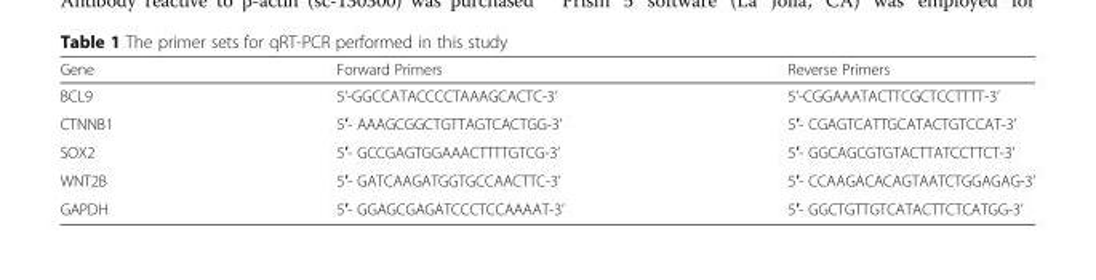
<table><thead><tr><td>Gene</td><td>Forward Primers</td><td>Reverse Primers</td></tr></thead><tbody><tr><td>BCL9</td><td>5’-GGCCATACCCCTAAAGCACTC-3’</td><td>5’-CGGAAATACTTCGCTCCTTTT-3’</td></tr><tr><td>CTNNB1</td><td>5′- AAAGCGGCTGTTAGTCACTGG-3’</td><td>5′- CGAGTCATTGCATACTGTCCAT-3’</td></tr><tr><td>SOX2</td><td>5′- GCCGAGTGGAAACTTTTGTCG-3’</td><td>5′- GGCAGCGTGTACTTATCCTTCT-3’</td></tr><tr><td>WNT2B</td><td>5′- GATCAAGATGGTGCCAACTTC-3’</td><td>5′- CCAAGACACAGTAATCTGGAGAG-3’</td></tr><tr><td>GAPDH</td><td>5′- GGAGCGAGATCCCTCCAAAAT-3’</td><td>5′- GGCTGTTGTCATACTTCTCATGG-3’</td></tr></tbody></table>